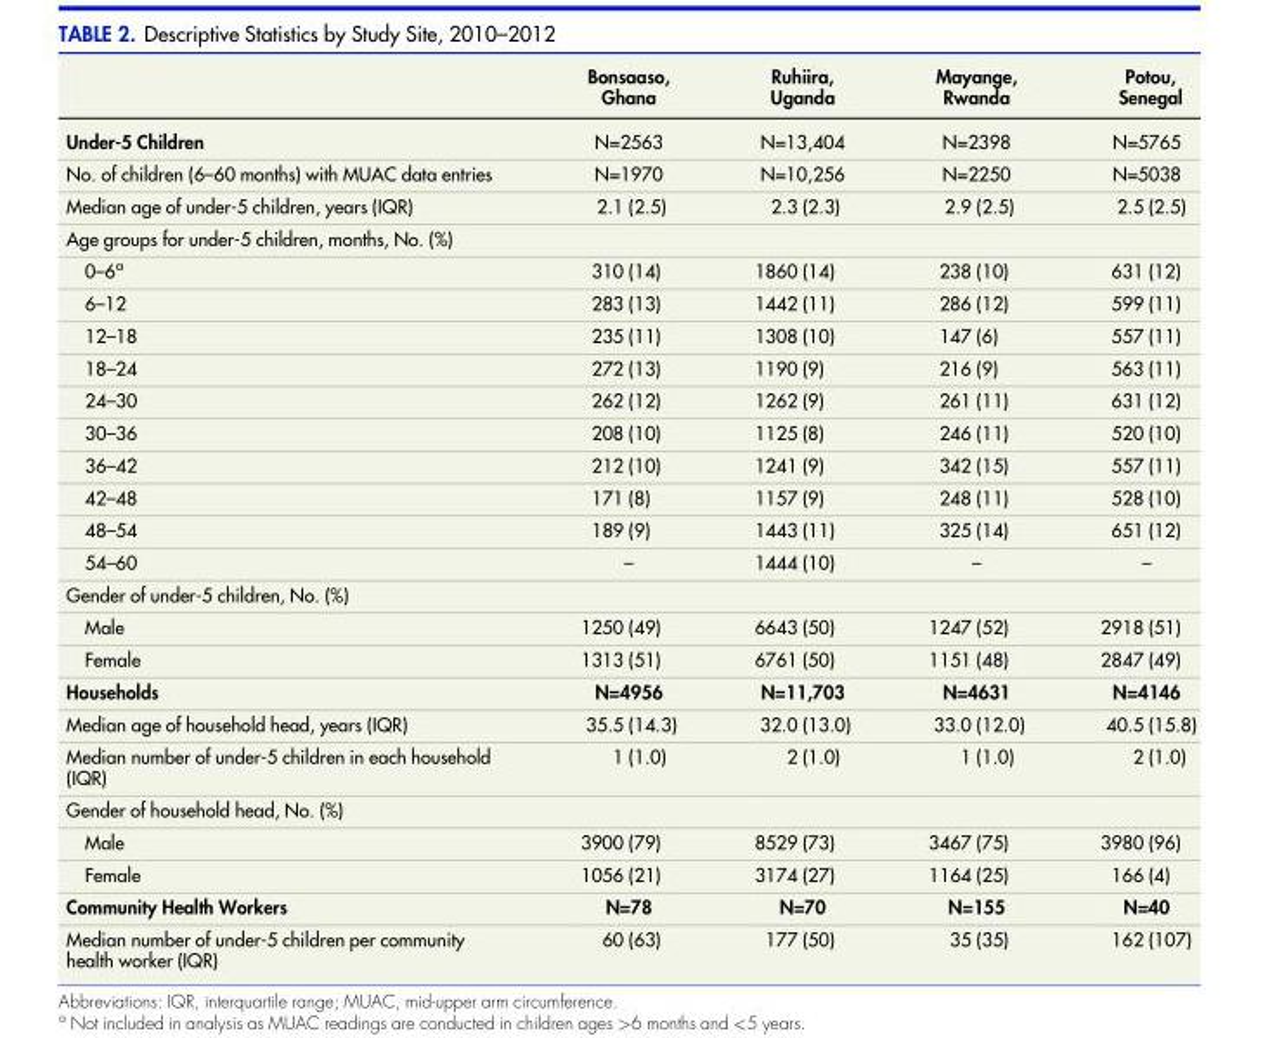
<table><thead><tr><td></td><td>Bonsaaso, Ghana</td><td>Ruhiira, Uganda</td><td>Mayange, Rwanda</td><td>Potou, Senegal</td></tr></thead><tbody><tr><td>Under-5 Children</td><td>N=2563</td><td>N=13,404</td><td>N=2398</td><td>N=5765</td></tr><tr><td>No. of children (6–60 months) with MUAC data entries</td><td>N=1970</td><td>N=10,256</td><td>N=2250</td><td>N=5038</td></tr><tr><td>Median age of under-5 children, years (IQR)</td><td>2.1 (2.5)</td><td>2.3 (2.3)</td><td>2.9 (2.5)</td><td>2.5 (2.5)</td></tr><tr><td colspan="5">Age groups for under-5 children, months, No. (%)</td></tr><tr><td>0–6<sup>a</sup></td><td>310 (14)</td><td>1860 (14)</td><td>238 (10)</td><td>631 (12)</td></tr><tr><td>6–12</td><td>283 (13)</td><td>1442 (11)</td><td>286 (12)</td><td>599 (11)</td></tr><tr><td>12–18</td><td>235 (11)</td><td>1308 (10)</td><td>147 (6)</td><td>557 (11)</td></tr><tr><td>18–24</td><td>272 (13)</td><td>1190 (9)</td><td>216 (9)</td><td>563 (11)</td></tr><tr><td>24–30</td><td>262 (12)</td><td>1262 (9)</td><td>261 (11)</td><td>631 (12)</td></tr><tr><td>30–36</td><td>208 (10)</td><td>1125 (8)</td><td>246 (11)</td><td>520 (10)</td></tr><tr><td>36–42</td><td>212 (10)</td><td>1241 (9)</td><td>342 (15)</td><td>557 (11)</td></tr><tr><td>42–48</td><td>171 (8)</td><td>1157 (9)</td><td>248 (11)</td><td>528 (10)</td></tr><tr><td>48–54</td><td>189 (9)</td><td>1443 (11)</td><td>325 (14)</td><td>651 (12)</td></tr><tr><td>54–60</td><td>–</td><td>1444 (10)</td><td>–</td><td>–</td></tr><tr><td colspan="5">Gender of under-5 children, No. (%)</td></tr><tr><td>Male</td><td>1250 (49)</td><td>6643 (50)</td><td>1247 (52)</td><td>2918 (51)</td></tr><tr><td>Female</td><td>1313 (51)</td><td>6761 (50)</td><td>1151 (48)</td><td>2847 (49)</td></tr><tr><td>Households</td><td>N=4956</td><td>N=11,703</td><td>N=4631</td><td>N=4146</td></tr><tr><td>Median age of household head, years (IQR)</td><td>35.5 (14.3)</td><td>32.0 (13.0)</td><td>33.0 (12.0)</td><td>40.5 (15.8)</td></tr><tr><td>Median number of under-5 children in each household (IQR)</td><td>1 (1.0)</td><td>2 (1.0)</td><td>1 (1.0)</td><td>2 (1.0)</td></tr><tr><td colspan="5">Gender of household head, No. (%)</td></tr><tr><td>Male</td><td>3900 (79)</td><td>8529 (73)</td><td>3467 (75)</td><td>3980 (96)</td></tr><tr><td>Female</td><td>1056 (21)</td><td>3174 (27)</td><td>1164 (25)</td><td>166 (4)</td></tr><tr><td>Community Health Workers</td><td>N=78</td><td>N=70</td><td>N=155</td><td>N=40</td></tr><tr><td>Median number of under-5 children per community health worker (IQR)</td><td>60 (63)</td><td>177 (50)</td><td>35 (35)</td><td>162 (107)</td></tr></tbody></table>